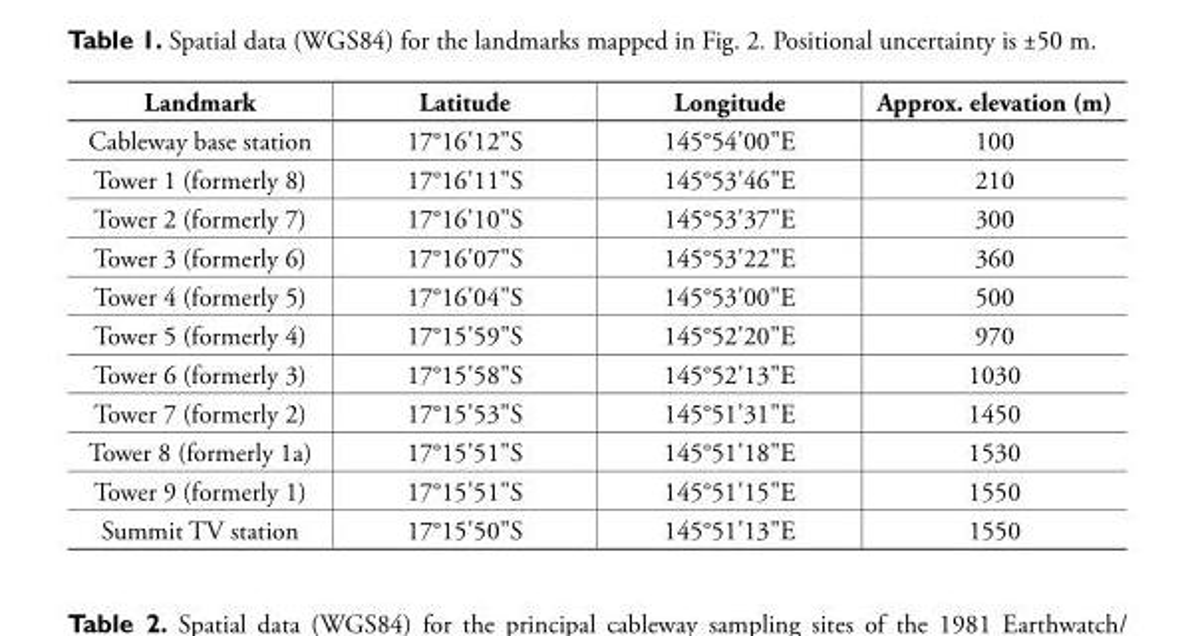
<table><thead><tr><td>Landmark</td><td>Latitude Longitude</td><td>Approx. elevation (m)</td></tr></thead><tbody><tr><td>Cableway base station</td><td>17°16&#x27;12&quot;S 145°54&#x27;00&quot;E</td><td>100</td></tr><tr><td>Tower 1 (formerly 8)</td><td>17°16&#x27;11&quot;S 145°53&#x27;46&quot;E</td><td>210</td></tr><tr><td>Tower 2 (formerly 7)</td><td>17°16&#x27;10&quot;S 145°53&#x27;37&quot;E</td><td>300</td></tr><tr><td>Tower 3 (formerly 6)</td><td>17°16&#x27;07&quot;S 145°53&#x27;22&quot;E</td><td>360</td></tr><tr><td>Tower 4 (formerly 5)</td><td>17°16&#x27;04&quot;S 145°53&#x27;00&quot;E</td><td>500</td></tr><tr><td>Tower 5 (formerly 4)</td><td>17°15&#x27;59&quot;S 145°52&#x27;20&quot;E</td><td>970</td></tr><tr><td>Tower 6 (formerly 3)</td><td>17°15&#x27;58&quot;S 145°52&#x27;13&quot;E</td><td>1030</td></tr><tr><td>Tower 7 (formerly 2)</td><td>17°15&#x27;53&quot;S 145°51&#x27;31&quot;E</td><td>1450</td></tr><tr><td>Tower 8 (formerly 1a)</td><td>17°15&#x27;51&quot;S 145°51&#x27;18&quot;E</td><td>1530</td></tr><tr><td>Tower 9 (formerly 1)</td><td>17°15&#x27;51&quot;S 145°51&#x27;15&quot;E</td><td>1550</td></tr><tr><td>Summit TV station</td><td>17°15&#x27;50&quot;S 145°51&#x27;13&quot;E</td><td>1550</td></tr></tbody></table>